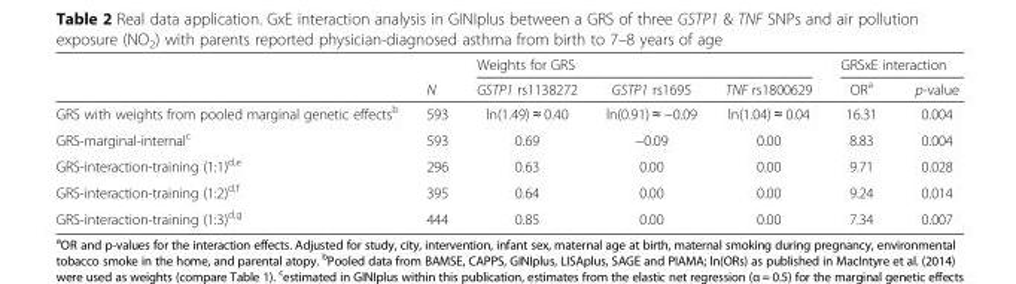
<table><thead><tr><td rowspan="2"></td><td rowspan="2">N</td><td colspan="3">Weights for GRS</td><td colspan="2">GRSxE interaction</td></tr><tr><td>GSTP1 rs1138272</td><td>GSTP1 rs1695</td><td>TNF rs1800629</td><td>OR<sup>a</sup></td><td>p-value</td></tr></thead><tbody><tr><td>GRS with weights from pooled marginal genetic effects<sup>b</sup></td><td>593</td><td>ln(1.49) ≈ 0.40</td><td>ln(0.91) ≈ −0.09</td><td>ln(1.04) ≈ 0.04</td><td>16.31</td><td>0.004</td></tr><tr><td>GRS-marginal-internal<sup>c</sup></td><td>593</td><td>0.69</td><td>−0.09</td><td>0.00</td><td>8.83</td><td>0.004</td></tr><tr><td>GRS-interaction-training (1:1)<sup>d,e</sup></td><td>296</td><td>0.63</td><td>0.00</td><td>0.00</td><td>9.71</td><td>0.028</td></tr><tr><td>GRS-interaction-training (1:2)<sup>d,f</sup></td><td>395</td><td>0.64</td><td>0.00</td><td>0.00</td><td>9.24</td><td>0.014</td></tr><tr><td>GRS-interaction-training (1:3)<sup>d,g</sup></td><td>444</td><td>0.85</td><td>0.00</td><td>0.00</td><td>7.34</td><td>0.007</td></tr></tbody></table>